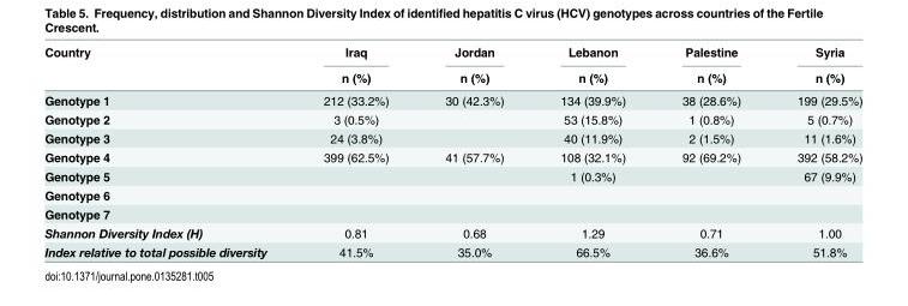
<table><thead><tr><td rowspan="2">Country</td><td rowspan="2">Iraq n (%)</td><td rowspan="2">Jordan n (%)</td><td rowspan="2">Lebanon n (%)</td><td rowspan="2">Palestine n (%)</td><td rowspan="2">Syria n (%)</td></tr><tr></tr></thead><tbody><tr><td>Genotype 1</td><td>212 (33.2%)</td><td>30 (42.3%)</td><td>134 (39.9%)</td><td>38 (28.6%)</td><td>199 (29.5%)</td></tr><tr><td>Genotype 2</td><td>3 (0.5%)</td><td></td><td>53 (15.8%)</td><td>1 (0.8%)</td><td>5 (0.7%)</td></tr><tr><td>Genotype 3</td><td>24 (3.8%)</td><td></td><td>40 (11.9%)</td><td>2 (1.5%)</td><td>11 (1.6%)</td></tr><tr><td>Genotype 4</td><td>399 (62.5%)</td><td>41 (57.7%)</td><td>108 (32.1%)</td><td>92 (69.2%)</td><td>392 (58.2%)</td></tr><tr><td>Genotype 5</td><td></td><td></td><td>1 (0.3%)</td><td></td><td>67 (9.9%)</td></tr><tr><td colspan="6">Genotype 6</td></tr><tr><td colspan="6">Genotype 7</td></tr><tr><td>Shannon Diversity Index (H)</td><td>0.81</td><td>0.68</td><td>1.29</td><td>0.71</td><td>1.00</td></tr><tr><td>Index relative to total possible diversity</td><td>41.5%</td><td>35.0%</td><td>66.5%</td><td>36.6%</td><td>51.8%</td></tr></tbody></table>